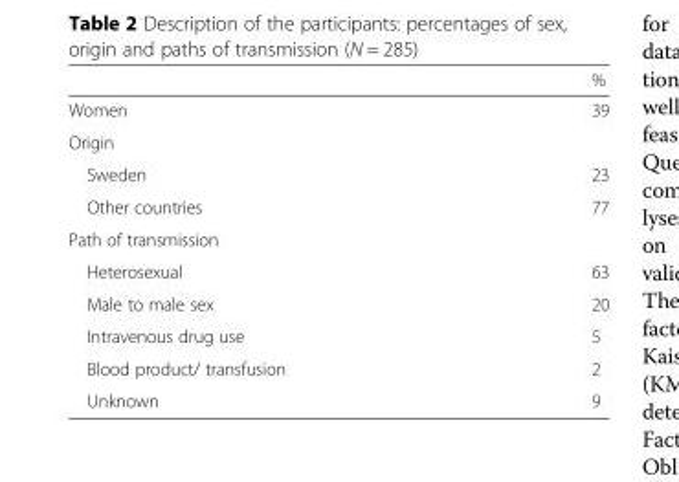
<table><thead><tr><td></td><td>%</td></tr></thead><tbody><tr><td>Women</td><td>39</td></tr><tr><td colspan="2">Origin</td></tr><tr><td>Sweden</td><td>23</td></tr><tr><td>Other countries</td><td>77</td></tr><tr><td colspan="2">Path of transmission</td></tr><tr><td>Heterosexual</td><td>63</td></tr><tr><td>Male to male sex</td><td>20</td></tr><tr><td>Intravenous drug use</td><td>5</td></tr><tr><td>Blood product/ transfusion</td><td>2</td></tr><tr><td>Unknown</td><td>9</td></tr></tbody></table>